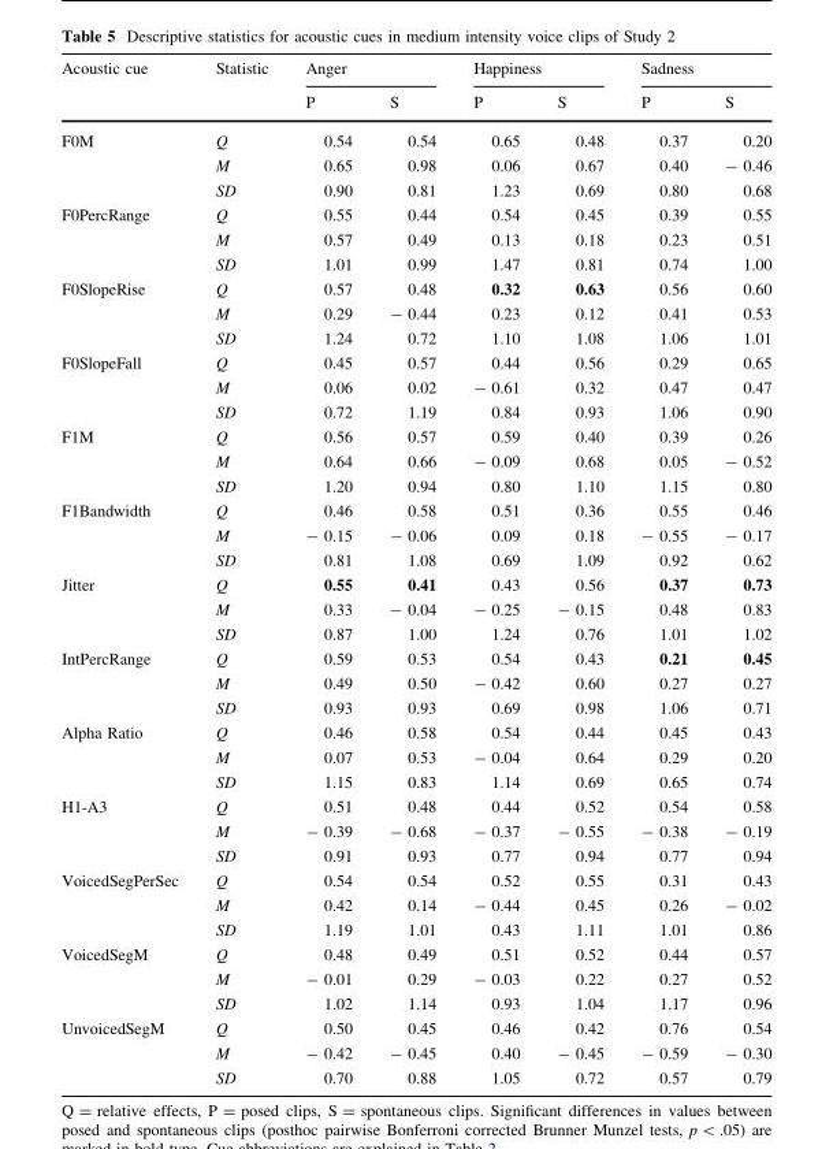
<table><thead><tr><td rowspan="2">Acoustic cue</td><td rowspan="2">Statistic</td><td colspan="2">Anger</td><td colspan="2">Happiness</td><td colspan="2">Sadness</td></tr><tr><td>P</td><td>S</td><td>P</td><td>S</td><td>P</td><td>S</td></tr></thead><tbody><tr><td rowspan="3">F0M</td><td>Q</td><td>0.54</td><td>0.54</td><td>0.65</td><td>0.48</td><td>0.37</td><td>0.20</td></tr><tr><td>M</td><td>0.65</td><td>0.98</td><td>0.06</td><td>0.67</td><td>0.40</td><td>- 0.46</td></tr><tr><td>SD</td><td>0.90</td><td>0.81</td><td>1.23</td><td>0.69</td><td>0.80</td><td>0.68</td></tr><tr><td rowspan="3">F0PercRange</td><td>Q</td><td>0.55</td><td>0.44</td><td>0.54</td><td>0.45</td><td>0.39</td><td>0.55</td></tr><tr><td>M</td><td>0.57</td><td>0.49</td><td>0.13</td><td>0.18</td><td>0.23</td><td>0.51</td></tr><tr><td>SD</td><td>1.01</td><td>0.99</td><td>1.47</td><td>0.81</td><td>0.74</td><td>1.00</td></tr><tr><td rowspan="3">F0SlopeRise</td><td>Q</td><td>0.57</td><td>0.48</td><td>0.32</td><td>0.63</td><td>0.56</td><td>0.60</td></tr><tr><td>M</td><td>0.29</td><td>- 0.44</td><td>0.23</td><td>0.12</td><td>0.41</td><td>0.53</td></tr><tr><td>SD</td><td>1.24</td><td>0.72</td><td>1.10</td><td>1.08</td><td>1.06</td><td>1.01</td></tr><tr><td rowspan="3">F0SlopeFall</td><td>Q</td><td>0.45</td><td>0.57</td><td>0.44</td><td>0.56</td><td>0.29</td><td>0.65</td></tr><tr><td>M</td><td>0.06</td><td>0.02</td><td>- 0.61</td><td>0.32</td><td>0.47</td><td>0.47</td></tr><tr><td>SD</td><td>0.72</td><td>1.19</td><td>0.84</td><td>0.93</td><td>1.06</td><td>0.90</td></tr><tr><td rowspan="3">F1M</td><td>Q</td><td>0.56</td><td>0.57</td><td>0.59</td><td>0.40</td><td>0.39</td><td>0.26</td></tr><tr><td>M</td><td>0.64</td><td>0.66</td><td>- 0.09</td><td>0.68</td><td>0.05</td><td>- 0.52</td></tr><tr><td>SD</td><td>1.20</td><td>0.94</td><td>0.80</td><td>1.10</td><td>1.15</td><td>0.80</td></tr><tr><td rowspan="3">F1Bandwidth</td><td>Q</td><td>0.46</td><td>0.58</td><td>0.51</td><td>0.36</td><td>0.55</td><td>0.46</td></tr><tr><td>M</td><td>- 0.15</td><td>- 0.06</td><td>0.09</td><td>0.18</td><td>- 0.55</td><td>- 0.17</td></tr><tr><td>SD</td><td>0.81</td><td>1.08</td><td>0.69</td><td>1.09</td><td>0.92</td><td>0.62</td></tr><tr><td rowspan="3">Jitter</td><td>Q</td><td>0.55</td><td>0.41</td><td>0.43</td><td>0.56</td><td>0.37</td><td>0.73</td></tr><tr><td>M</td><td>0.33</td><td>- 0.04</td><td>- 0.25</td><td>- 0.15</td><td>0.48</td><td>0.83</td></tr><tr><td>SD</td><td>0.87</td><td>1.00</td><td>1.24</td><td>0.76</td><td>1.01</td><td>1.02</td></tr><tr><td rowspan="3">IntPercRange</td><td>Q</td><td>0.59</td><td>0.53</td><td>0.54</td><td>0.43</td><td>0.21</td><td>0.45</td></tr><tr><td>M</td><td>0.49</td><td>0.50</td><td>- 0.42</td><td>0.60</td><td>0.27</td><td>0.27</td></tr><tr><td>SD</td><td>0.93</td><td>0.93</td><td>0.69</td><td>0.98</td><td>1.06</td><td>0.71</td></tr><tr><td rowspan="3">Alpha Ratio</td><td>Q</td><td>0.46</td><td>0.58</td><td>0.54</td><td>0.44</td><td>0.45</td><td>0.43</td></tr><tr><td>M</td><td>0.07</td><td>0.53</td><td>- 0.04</td><td>0.64</td><td>0.29</td><td>0.20</td></tr><tr><td>SD</td><td>1.15</td><td>0.83</td><td>1.14</td><td>0.69</td><td>0.65</td><td>0.74</td></tr><tr><td rowspan="3">H1-A3</td><td>Q</td><td>0.51</td><td>0.48</td><td>0.44</td><td>0.52</td><td>0.54</td><td>0.58</td></tr><tr><td>M</td><td>- 0.39</td><td>- 0.68</td><td>- 0.37</td><td>- 0.55</td><td>- 0.38</td><td>- 0.19</td></tr><tr><td>SD</td><td>0.91</td><td>0.93</td><td>0.77</td><td>0.94</td><td>0.77</td><td>0.94</td></tr><tr><td rowspan="3">VoicedSegPerSec</td><td>Q</td><td>0.54</td><td>0.54</td><td>0.52</td><td>0.55</td><td>0.31</td><td>0.43</td></tr><tr><td>M</td><td>0.42</td><td>0.14</td><td>- 0.44</td><td>0.45</td><td>0.26</td><td>- 0.02</td></tr><tr><td>SD</td><td>1.19</td><td>1.01</td><td>0.43</td><td>1.11</td><td>1.01</td><td>0.86</td></tr><tr><td rowspan="3">VoicedSegM</td><td>Q</td><td>0.48</td><td>0.49</td><td>0.51</td><td>0.52</td><td>0.44</td><td>0.57</td></tr><tr><td>M</td><td>- 0.01</td><td>0.29</td><td>- 0.03</td><td>0.22</td><td>0.27</td><td>0.52</td></tr><tr><td>SD</td><td>1.02</td><td>1.14</td><td>0.93</td><td>1.04</td><td>1.17</td><td>0.96</td></tr><tr><td rowspan="3">UnvoicedSegM</td><td>Q</td><td>0.50</td><td>0.45</td><td>0.46</td><td>0.42</td><td>0.76</td><td>0.54</td></tr><tr><td>M</td><td>- 0.42</td><td>- 0.45</td><td>0.40</td><td>- 0.45</td><td>- 0.59</td><td>- 0.30</td></tr><tr><td>SD</td><td>0.70</td><td>0.88</td><td>1.05</td><td>0.72</td><td>0.57</td><td>0.79</td></tr></tbody></table>